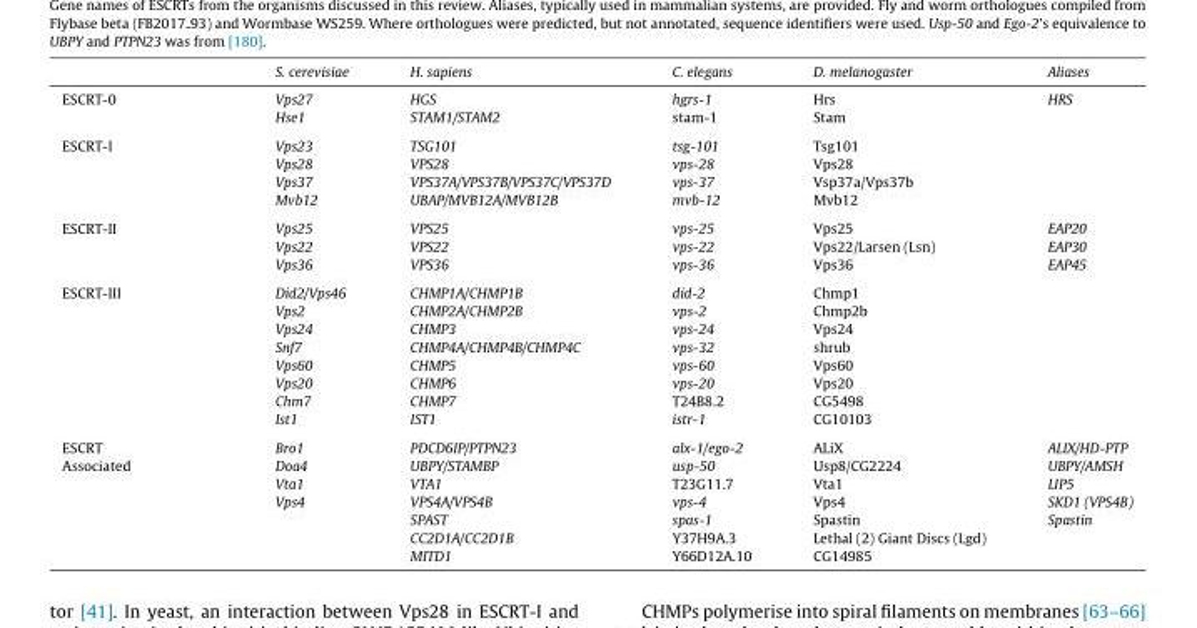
<table><thead><tr><td></td><td>S. cerevisiae</td><td>H. sapiens</td><td>C. elegans</td><td>D. melanogaster</td><td>Aliases</td></tr></thead><tbody><tr><td rowspan="2">ESCRT-0</td><td>Vps27</td><td>HGS</td><td>hgrs-1</td><td>Hrs</td><td>HRS</td></tr><tr><td>Hse1</td><td>STAM1/STAM2</td><td>stam-1</td><td>Stam</td><td></td></tr><tr><td rowspan="4">ESCRT-I</td><td>Vps23</td><td>TSG101</td><td>tsg-101</td><td>Tsg101</td><td></td></tr><tr><td>Vps28</td><td>VPS28</td><td>vps-28</td><td>Vps28</td><td></td></tr><tr><td>Vps37</td><td>VPS37A/VPS37B/VPS37C/VPS37D</td><td>vps-37</td><td>Vsp37a/Vps37b</td><td></td></tr><tr><td>Mvb12</td><td>UBAP/MVB12A/MVB12B</td><td>mvb-12</td><td>Mvb12</td><td></td></tr><tr><td rowspan="3">ESCRT-II</td><td>Vps25</td><td>VPS25</td><td>vps-25</td><td>Vps25</td><td>EAP20</td></tr><tr><td>Vps22</td><td>VPS22</td><td>vps-22</td><td>Vps22/Larsen (Lsn)</td><td>EAP30</td></tr><tr><td>Vps36</td><td>VPS36</td><td>vps-36</td><td>Vps36</td><td>EAP45</td></tr><tr><td rowspan="8">ESCRT-III</td><td>Did2/Vps46</td><td>CHMP1A/CHMP1B</td><td>did-2</td><td>Chmp1</td><td></td></tr><tr><td>Vps2</td><td>CHMP2A/CHMP2B</td><td>vps-2</td><td>Chmp2b</td><td></td></tr><tr><td>Vps24</td><td>CHMP3</td><td>vps-24</td><td>Vps24</td><td></td></tr><tr><td>Snf7</td><td>CHMP4A/CHMP4B/CHMP4C</td><td>vps-32</td><td>shrub</td><td></td></tr><tr><td>Vps60</td><td>CHMP5</td><td>vps-60</td><td>Vps60</td><td></td></tr><tr><td>Vps20</td><td>CHMP6</td><td>vps-20</td><td>Vps20</td><td></td></tr><tr><td>Chm7</td><td>CHMP7</td><td>T24B8.2</td><td>CG5498</td><td></td></tr><tr><td>Ist1</td><td>IST1</td><td>istr-1</td><td>CG10103</td><td></td></tr><tr><td>ESCRT</td><td>Bro1</td><td>PDCD6IP/PTPN23</td><td>alx-1/ego-2</td><td>ALiX</td><td>ALIX/HD-PTP</td></tr><tr><td rowspan="6">Associated</td><td>Doa4</td><td>UBPY/STAMBP</td><td>usp-50</td><td>Usp8/CG2224</td><td>UBPY/AMSH</td></tr><tr><td>Vta1</td><td>VTA1</td><td>T23G11.7</td><td>Vta1</td><td>LIP5</td></tr><tr><td>Vps4</td><td>VPS4A/VPS4B</td><td>vps-4</td><td>Vps4</td><td>SKD1 (VPS4B)</td></tr><tr><td></td><td>SPAST</td><td>spas-1</td><td>Spastin</td><td>Spastin</td></tr><tr><td></td><td>CC2D1A/CC2D1B</td><td>Y37H9A.3</td><td>Lethal (2) Giant Discs (Lgd)</td><td></td></tr><tr><td></td><td>MITD1</td><td>Y66D12A.10</td><td>CG14985</td><td></td></tr></tbody></table>